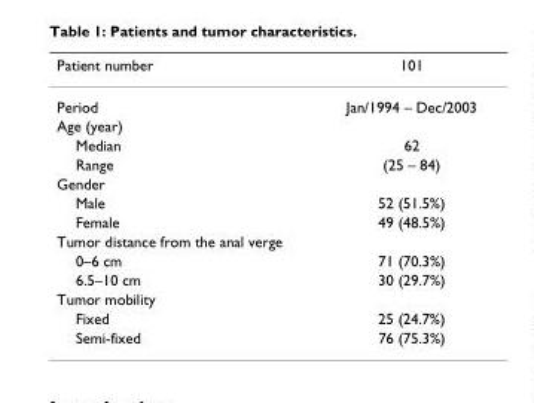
<table><thead><tr><td>Patient number</td><td>101</td></tr></thead><tbody><tr><td>Period</td><td>Jan/1994 – Dec/2003</td></tr><tr><td colspan="2">Age (year)</td></tr><tr><td>Median</td><td>62</td></tr><tr><td>Range</td><td>(25 – 84)</td></tr><tr><td colspan="2">Gender</td></tr><tr><td>Male</td><td>52 (51.5%)</td></tr><tr><td>Female</td><td>49 (48.5%)</td></tr><tr><td colspan="2">Tumor distance from the anal verge</td></tr><tr><td>0–6 cm</td><td>71 (70.3%)</td></tr><tr><td>6.5–10 cm</td><td>30 (29.7%)</td></tr><tr><td colspan="2">Tumor mobility</td></tr><tr><td>Fixed</td><td>25 (24.7%)</td></tr><tr><td>Semi-fixed</td><td>76 (75.3%)</td></tr></tbody></table>